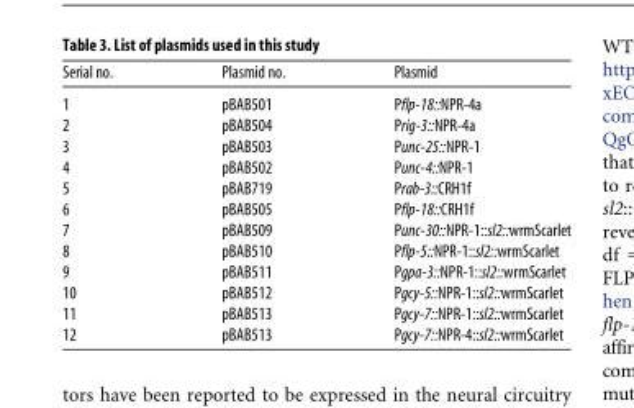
<table><thead><tr><td>Serial no.</td><td>Plasmid no.</td><td>Plasmid</td></tr></thead><tbody><tr><td>1</td><td>pBAB501</td><td>Pflp-18::NPR-4a</td></tr><tr><td>2</td><td>pBAB504</td><td>Prig-3::NPR-4a</td></tr><tr><td>3</td><td>pBAB503</td><td>Punc-25::NPR-1</td></tr><tr><td>4</td><td>pBAB502</td><td>Punc-4::NPR-1</td></tr><tr><td>5</td><td>pBAB719</td><td>Prab-3::CRH1f</td></tr><tr><td>6</td><td>pBAB505</td><td>Pflp-18::CRH1f</td></tr><tr><td>7</td><td>pBAB509</td><td>Punc-30::NPR-1::sl2::wrmScarlet</td></tr><tr><td>8</td><td>pBAB510</td><td>Pflp-5::NPR-1::sl2::wrmScarlet</td></tr><tr><td>9</td><td>pBAB511</td><td>Pgpa-3::NPR-1::sl2::wrmScarlet</td></tr><tr><td>10</td><td>pBAB512</td><td>Pgcy-5::NPR-1::sl2::wrmScarlet</td></tr><tr><td>11</td><td>pBAB513</td><td>Pgcy-7::NPR-1::sl2::wrmScarlet</td></tr><tr><td>12</td><td>pBAB513</td><td>Pgcy-7::NPR-4::sl2::wrmScarlet</td></tr></tbody></table>